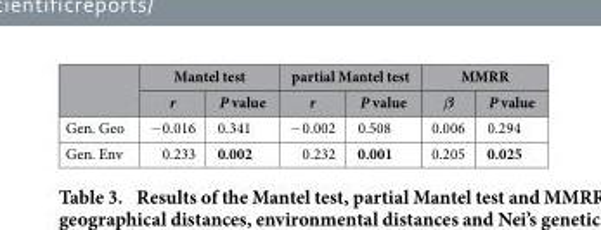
<table><thead><tr><td rowspan="2"></td><td colspan="2">Mantel test</td><td colspan="2">partial Mantel test</td><td colspan="2">MMRR</td></tr><tr><td>r</td><td>P value</td><td>r</td><td>P value</td><td>β</td><td>P value</td></tr></thead><tbody><tr><td>Gen. Geo</td><td>− 0.016</td><td>0.341</td><td>− 0.002</td><td>0.508</td><td>0.006</td><td>0.294</td></tr><tr><td>Gen. Env</td><td>0.233</td><td>0.002</td><td>0.232</td><td>0.001</td><td>0.205</td><td>0.025</td></tr></tbody></table>